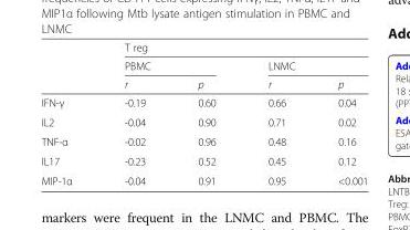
<table><thead><tr><td rowspan="3"></td><td colspan="4">T reg</td></tr><tr><td colspan="2">PBMC</td><td colspan="2">LNMC</td></tr><tr><td>r</td><td>p</td><td>r</td><td>p</td></tr></thead><tbody><tr><td>IFN-γ</td><td>-0.19</td><td>0.60</td><td>0.66</td><td>0.04</td></tr><tr><td>IL2</td><td>-0.04</td><td>0.90</td><td>0.71</td><td>0.02</td></tr><tr><td>TNF-α</td><td>-0.02</td><td>0.96</td><td>0.48</td><td>0.16</td></tr><tr><td>IL17</td><td>-0.23</td><td>0.52</td><td>0.45</td><td>0.12</td></tr><tr><td>MIP-1α</td><td>-0.04</td><td>0.91</td><td>0.95</td><td>&lt;0.001</td></tr></tbody></table>